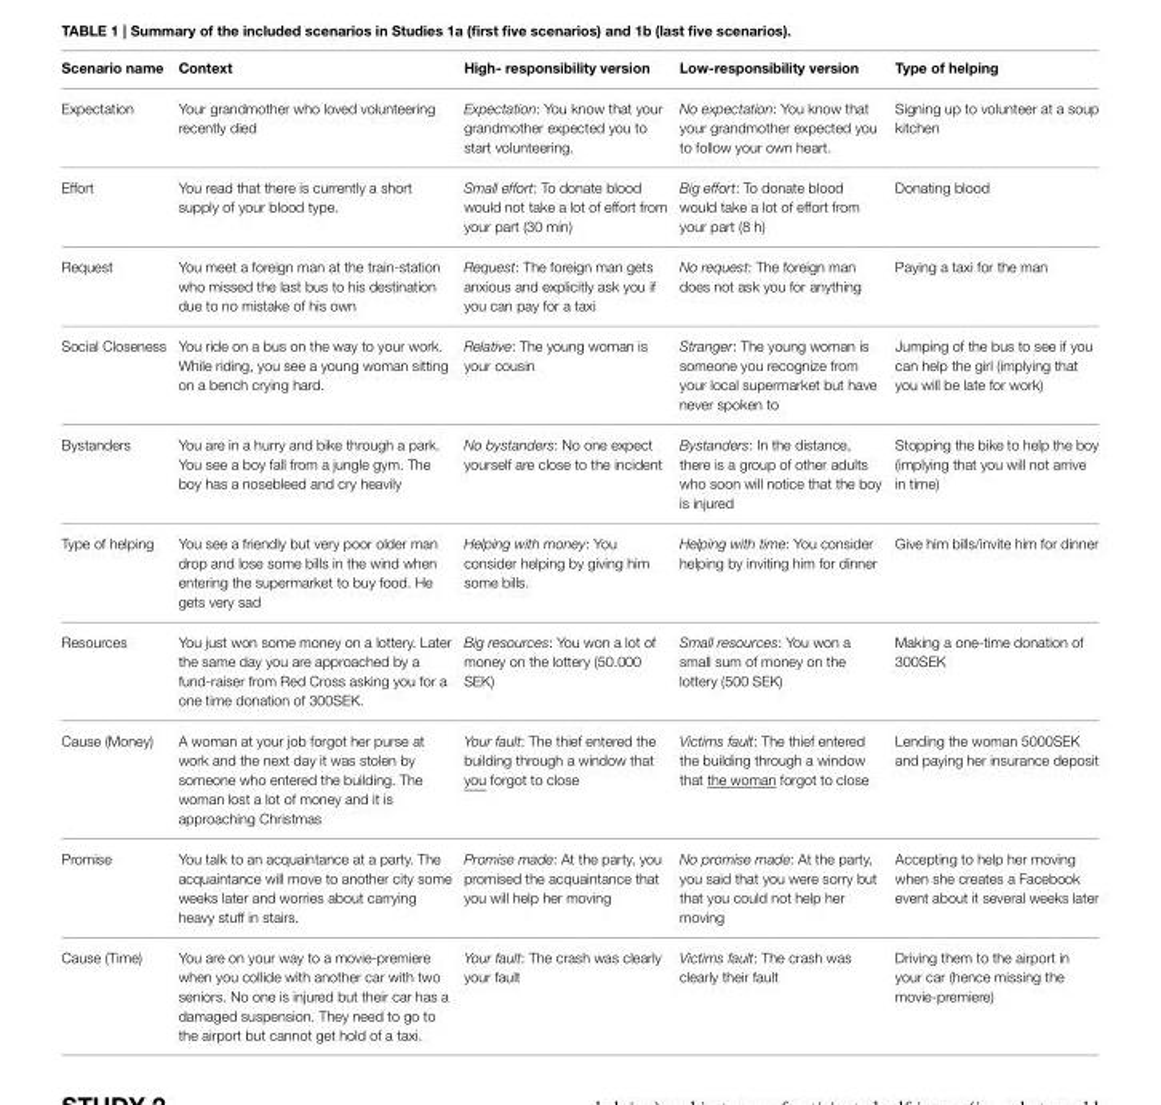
<table><thead><tr><td>Scenario name</td><td>Context</td><td>High- responsibility version</td><td>Low-responsibility version</td><td>Type of helping</td></tr></thead><tbody><tr><td>Expectation</td><td>Your grandmother who loved volunteering recently died</td><td>Expectation: You know that your grandmother expected you to start volunteering.</td><td>No expectation: You know that your grandmother expected you to follow your own heart.</td><td>Signing up to volunteer at a soup kitchen</td></tr><tr><td>Effort</td><td>You read that there is currently a short supply of your blood type.</td><td>Small effort: To donate blood would not take a lot of effort from your part (30 min)</td><td>Big effort: To donate blood would take a lot of effort from your part (8 h)</td><td>Donating blood</td></tr><tr><td>Request</td><td>You meet a foreign man at the train-station who missed the last bus to his destination due to no mistake of his own</td><td>Request: The foreign man gets anxious and explicitly ask you if you can pay for a taxi</td><td>No request: The foreign man does not ask you for anything</td><td>Paying a taxi for the man</td></tr><tr><td>Social Closeness</td><td>You ride on a bus on the way to your work. While riding, you see a young woman sitting on a bench crying hard.</td><td>Relative: The young woman is your cousin</td><td>Stranger: The young woman is someone you recognize from your local supermarket but have never spoken to</td><td>Jumping of the bus to see if you can help the girl (implying that you will be late for work)</td></tr><tr><td>Bystanders</td><td>You are in a hurry and bike through a park. You see a boy fall from a jungle gym. The boy has a nosebleed and cry heavily</td><td>No bystanders: No one expect yourself are close to the incident</td><td>Bystanders: In the distance, there is a group of other adults who soon will notice that the boy is injured</td><td>Stopping the bike to help the boy (implying that you will not arrive in time)</td></tr><tr><td>Type of helping</td><td>You see a friendly but very poor older man drop and lose some bills in the wind when entering the supermarket to buy food. He gets very sad</td><td>Helping with money: You consider helping by giving him some bills.</td><td>Helping with time: You consider helping by inviting him for dinner</td><td>Give him bills/invite him for dinner</td></tr><tr><td>Resources</td><td>You just won some money on a lottery. Later the same day you are approached by a fund-raiser from Red Cross asking you for a one time donation of 300SEK.</td><td>Big resources: You won a lot of money on the lottery (50.000 SEK)</td><td>Small resources: You won a small sum of money on the lottery (500 SEK)</td><td>Making a one-time donation of 300SEK</td></tr><tr><td>Cause (Money)</td><td>A woman at your job forgot her purse at work and the next day it was stolen by someone who entered the building. The woman lost a lot of money and it is approaching Christmas</td><td>Your fault: The thief entered the building through a window that you forgot to close</td><td>Victims fault: The thief entered the building through a window that the woman forgot to close</td><td>Lending the woman 5000SEK and paying her insurance deposit</td></tr><tr><td>Promise</td><td>You talk to an acquaintance at a party. The acquaintance will move to another city some weeks later and worries about carrying heavy stuff in stairs.</td><td>Promise made: At the party, you promised the acquaintance that you will help her moving</td><td>No promise made: At the party, you said that you were sorry but that you could not help her moving</td><td>Accepting to help her moving when she creates a Facebook event about it several weeks later</td></tr><tr><td>Cause (Time)</td><td>You are on your way to a movie-premiere when you collide with another car with two seniors. No one is injured but their car has a damaged suspension. They need to go to the airport but cannot get hold of a taxi.</td><td>Your fault: The crash was clearly your fault</td><td>Victims fault: The crash was clearly their fault</td><td>Driving them to the airport in your car (hence missing the movie-premiere)</td></tr></tbody></table>